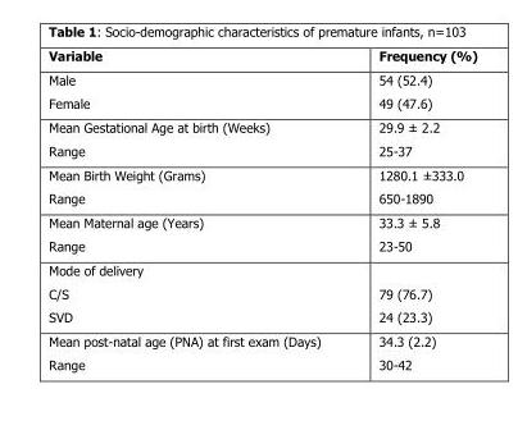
<table><thead><tr><td>Variable</td><td>Frequency (%)</td></tr></thead><tbody><tr><td>Male Female</td><td>54 (52.4) 49 (47.6)</td></tr><tr><td>Mean Gestational Age at birth (Weeks) Range</td><td>29.9 ± 2.2 25-37</td></tr><tr><td>Mean Birth Weight (Grams) Range</td><td>1280.1 ±333.0 650-1890</td></tr><tr><td>Mean Maternal age (Years) Range</td><td>33.3 ± 5.8 23-50</td></tr><tr><td>Mode of delivery C/S SVD</td><td>79 (76.7) 24 (23.3)</td></tr><tr><td>Mean post-natal age (PNA) at first exam (Days) Range</td><td>34.3 (2.2) 30-42</td></tr></tbody></table>